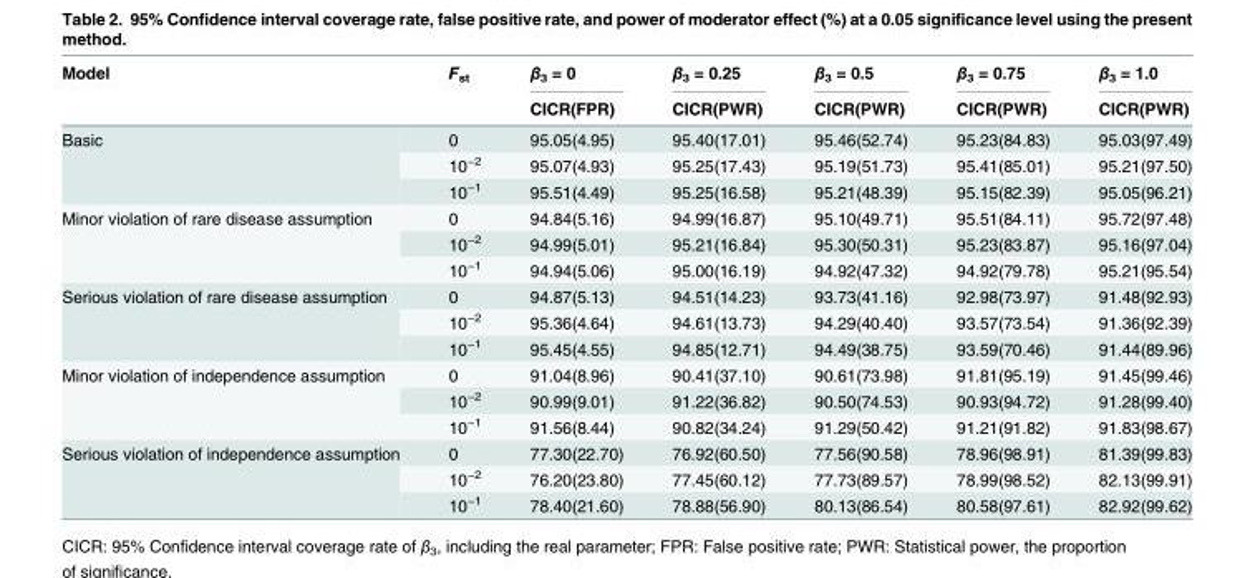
<table><thead><tr><td rowspan="2">Model</td><td rowspan="2">F<sub>st</sub></td><td rowspan="2">β<sub>3</sub> = 0 CICR(FPR)</td><td rowspan="2">β<sub>3</sub> = 0.25 CICR(PWR)</td><td rowspan="2">β<sub>3</sub> = 0.5 CICR(PWR)</td><td rowspan="2">β<sub>3</sub> = 0.75 CICR(PWR)</td><td rowspan="2">β<sub>3</sub> = 1.0 CICR(PWR)</td></tr><tr></tr></thead><tbody><tr><td rowspan="3">Basic</td><td>0</td><td>95.05(4.95)</td><td>95.40(17.01)</td><td>95.46(52.74)</td><td>95.23(84.83)</td><td>95.03(97.49)</td></tr><tr><td>10<sup>−2</sup></td><td>95.07(4.93)</td><td>95.25(17.43)</td><td>95.19(51.73)</td><td>95.41(85.01)</td><td>95.21(97.50)</td></tr><tr><td>10<sup>−1</sup></td><td>95.51(4.49)</td><td>95.25(16.58)</td><td>95.21(48.39)</td><td>95.15(82.39)</td><td>95.05(96.21)</td></tr><tr><td rowspan="3">Minor violation of rare disease assumption</td><td>0</td><td>94.84(5.16)</td><td>94.99(16.87)</td><td>95.10(49.71)</td><td>95.51(84.11)</td><td>95.72(97.48)</td></tr><tr><td>10<sup>−2</sup></td><td>94.99(5.01)</td><td>95.21(16.84)</td><td>95.30(50.31)</td><td>95.23(83.87)</td><td>95.16(97.04)</td></tr><tr><td>10<sup>−1</sup></td><td>94.94(5.06)</td><td>95.00(16.19)</td><td>94.92(47.32)</td><td>94.92(79.78)</td><td>95.21(95.54)</td></tr><tr><td rowspan="3">Serious violation of rare disease assumption</td><td>0</td><td>94.87(5.13)</td><td>94.51(14.23)</td><td>93.73(41.16)</td><td>92.98(73.97)</td><td>91.48(92.93)</td></tr><tr><td>10<sup>−2</sup></td><td>95.36(4.64)</td><td>94.61(13.73)</td><td>94.29(40.40)</td><td>93.57(73.54)</td><td>91.36(92.39)</td></tr><tr><td>10<sup>−1</sup></td><td>95.45(4.55)</td><td>94.85(12.71)</td><td>94.49(38.75)</td><td>93.59(70.46)</td><td>91.44(89.96)</td></tr><tr><td rowspan="3">Minor violation of independence assumption</td><td>0</td><td>91.04(8.96)</td><td>90.41(37.10)</td><td>90.61(73.98)</td><td>91.81(95.19)</td><td>91.45(99.46)</td></tr><tr><td>10<sup>−2</sup></td><td>90.99(9.01)</td><td>91.22(36.82)</td><td>90.50(74.53)</td><td>90.93(94.72)</td><td>91.28(99.40)</td></tr><tr><td>10<sup>−1</sup></td><td>91.56(8.44)</td><td>90.82(34.24)</td><td>91.29(50.42)</td><td>91.21(91.82)</td><td>91.83(98.67)</td></tr><tr><td rowspan="3">Serious violation of independence assumption</td><td>0</td><td>77.30(22.70)</td><td>76.92(60.50)</td><td>77.56(90.58)</td><td>78.96(98.91)</td><td>81.39(99.83)</td></tr><tr><td>10<sup>−2</sup></td><td>76.20(23.80)</td><td>77.45(60.12)</td><td>77.73(89.57)</td><td>78.99(98.52)</td><td>82.13(99.91)</td></tr><tr><td>10<sup>−1</sup></td><td>78.40(21.60)</td><td>78.88(56.90)</td><td>80.13(86.54)</td><td>80.58(97.61)</td><td>82.92(99.62)</td></tr></tbody></table>